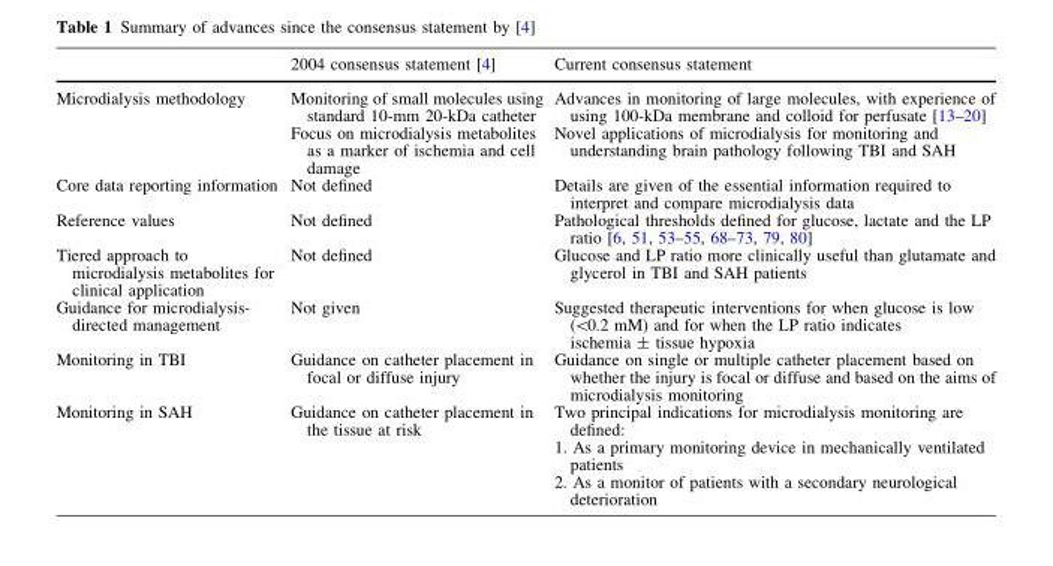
<table><thead><tr><td></td><td>2004 consensus statement [4]</td><td>Current consensus statement</td></tr></thead><tbody><tr><td rowspan="2">Microdialysis methodology</td><td>Monitoring of small molecules using standard 10-mm 20-kDa catheter</td><td>Advances in monitoring of large molecules, with experience of using 100-kDa membrane and colloid for perfusate [13–20]</td></tr><tr><td>Focus on microdialysis metabolites as a marker of ischemia and cell damage</td><td>Novel applications of microdialysis for monitoring and understanding brain pathology following TBI and SAH</td></tr><tr><td>Core data reporting information</td><td>Not defined</td><td>Details are given of the essential information required to interpret and compare microdialysis data</td></tr><tr><td>Reference values</td><td>Not defined</td><td>Pathological thresholds defined for glucose, lactate and the LP ratio [6, 51, 53–55, 68–73, 79, 80]</td></tr><tr><td>Tiered approach to microdialysis metabolites for clinical application</td><td>Not defined</td><td>Glucose and LP ratio more clinically useful than glutamate and glycerol in TBI and SAH patients</td></tr><tr><td>Guidance for microdialysis- directed management</td><td>Not given</td><td>Suggested therapeutic interventions for when glucose is low (&lt;0.2 mM) and for when the LP ratio indicates ischemia ± tissue hypoxia</td></tr><tr><td>Monitoring in TBI</td><td>Guidance on catheter placement in focal or diffuse injury</td><td>Guidance on single or multiple catheter placement based on whether the injury is focal or diffuse and based on the aims of microdialysis monitoring</td></tr><tr><td rowspan="3">Monitoring in SAH</td><td rowspan="3">Guidance on catheter placement in the tissue at risk</td><td>Two principal indications for microdialysis monitoring are defined:</td></tr><tr><td>1. As a primary monitoring device in mechanically ventilated patients</td></tr><tr><td>2. As a monitor of patients with a secondary neurological deterioration</td></tr></tbody></table>